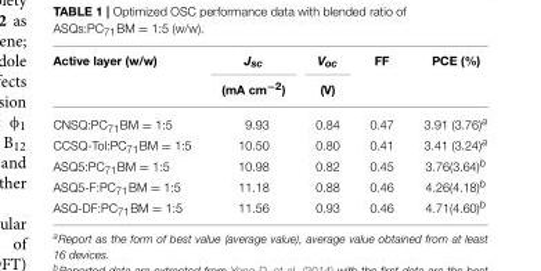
<table><thead><tr><td rowspan="2">Active layer (w/w)</td><td rowspan="2">Jsc (mA cm−2)</td><td rowspan="2">Voc (V)</td><td rowspan="2">FF</td><td rowspan="2">PCE (%)</td></tr><tr></tr></thead><tbody><tr><td>CNSQ:PC<sub>71</sub>BM = 1:5</td><td>9.93</td><td>0.84</td><td>0.47</td><td>3.91 (3.76)a</td></tr><tr><td>CCSQ-Tol:PC<sub>71</sub>BM = 1:5</td><td>10.50</td><td>0.80</td><td>0.41</td><td>3.41 (3.24)a</td></tr><tr><td>ASQ5:PC<sub>71</sub>BM = 1:5</td><td>10.98</td><td>0.82</td><td>0.45</td><td>3.76(3.64)b</td></tr><tr><td>ASQ5-F:PC<sub>71</sub>BM = 1:5</td><td>11.18</td><td>0.88</td><td>0.46</td><td>4.26(4.18)b</td></tr><tr><td>ASQ-DF:PC<sub>71</sub>BM = 1:5</td><td>11.56</td><td>0.93</td><td>0.46</td><td>4.71(4.60)b</td></tr></tbody></table>